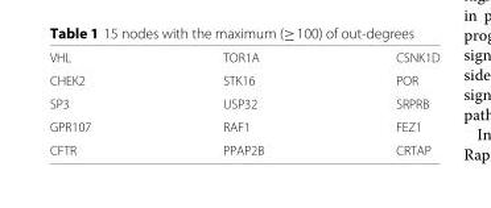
<table><tbody><tr><td>VHL</td><td>TOR1A</td><td>CSNK1D</td></tr><tr><td>CHEK2</td><td>STK16</td><td>POR</td></tr><tr><td>SP3</td><td>USP32</td><td>SRPRB</td></tr><tr><td>GPR107</td><td>RAF1</td><td>FEZ1</td></tr><tr><td>CFTR</td><td>PPAP2B</td><td>CRTAP</td></tr></tbody></table>